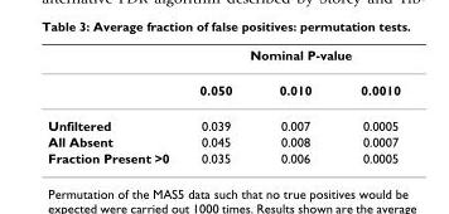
<table><thead><tr><td rowspan="2"></td><td colspan="3">Nominal P-value</td></tr><tr><td>0.050</td><td>0.010</td><td>0.0010</td></tr></thead><tbody><tr><td>Unfiltered</td><td>0.039</td><td>0.007</td><td>0.0005</td></tr><tr><td>All Absent</td><td>0.045</td><td>0.008</td><td>0.0007</td></tr><tr><td>Fraction Present &gt;0</td><td>0.035</td><td>0.006</td><td>0.0005</td></tr></tbody></table>